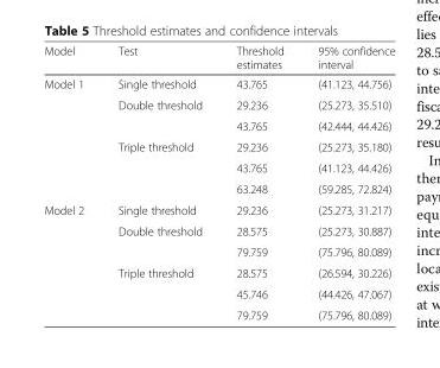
<table><thead><tr><td>Model</td><td>Test</td><td>Threshold estimates</td><td>95% confidence interval</td></tr></thead><tbody><tr><td rowspan="6">Model 1</td><td>Single threshold</td><td>43.765</td><td>(41.123, 44.756)</td></tr><tr><td>Double threshold</td><td>29.236</td><td>(25.273, 35.510)</td></tr><tr><td></td><td>43.765</td><td>(42.444, 44.426)</td></tr><tr><td>Triple threshold</td><td>29.236</td><td>(25.273, 35.180)</td></tr><tr><td></td><td>43.765</td><td>(41.123, 44.426)</td></tr><tr><td></td><td>63.248</td><td>(59.285, 72.824)</td></tr><tr><td rowspan="6">Model 2</td><td>Single threshold</td><td>29.236</td><td>(25.273, 31.217)</td></tr><tr><td>Double threshold</td><td>28.575</td><td>(25.273, 30.887)</td></tr><tr><td></td><td>79.759</td><td>(75.796, 80.089)</td></tr><tr><td>Triple threshold</td><td>28.575</td><td>(26.594, 30.226)</td></tr><tr><td></td><td>45.746</td><td>(44.426, 47.067)</td></tr><tr><td></td><td>79.759</td><td>(75.796, 80.089)</td></tr></tbody></table>